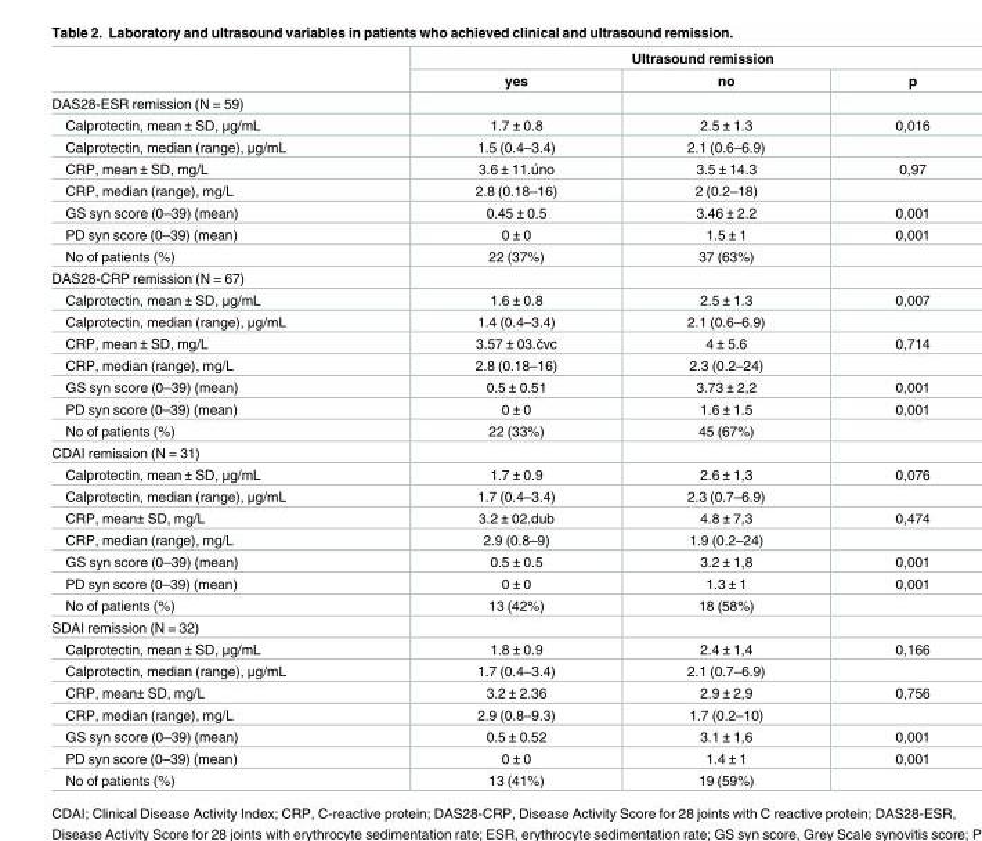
<table><thead><tr><td rowspan="2"></td><td colspan="3">Ultrasound remission</td></tr><tr><td>yes</td><td>no</td><td>p</td></tr></thead><tbody><tr><td colspan="4">DAS28-ESR remission (N = 59)</td></tr><tr><td>Calprotectin, mean ± SD, μg/mL</td><td>1.7 ± 0.8</td><td>2.5 ± 1.3</td><td>0,016</td></tr><tr><td>Calprotectin, median (range), μg/mL</td><td>1.5 (0.4–3.4)</td><td>2.1 (0.6–6.9)</td><td></td></tr><tr><td>CRP, mean ± SD, mg/L</td><td>3.6 ± 11.u´no</td><td>3.5 ± 14.3</td><td>0,97</td></tr><tr><td>CRP, median (range), mg/L</td><td>2.8 (0.18–16)</td><td>2 (0.2–18)</td><td></td></tr><tr><td>GS syn score (0–39) (mean)</td><td>0.45 ± 0.5</td><td>3.46 ± 2.2</td><td>0,001</td></tr><tr><td>PD syn score (0–39) (mean)</td><td>0 ± 0</td><td>1.5 ± 1</td><td>0,001</td></tr><tr><td>No of patients (%)</td><td>22 (37%)</td><td>37 (63%)</td><td></td></tr><tr><td colspan="4">DAS28-CRP remission (N = 67)</td></tr><tr><td>Calprotectin, mean ± SD, μg/mL</td><td>1.6 ± 0.8</td><td>2.5 ± 1.3</td><td>0,007</td></tr><tr><td>Calprotectin, median (range), μg/mL</td><td>1.4 (0.4–3.4)</td><td>2.1 (0.6–6.9)</td><td></td></tr><tr><td>CRP, mean ± SD, mg/L</td><td>3.57 ± 03.čvc</td><td>4 ± 5.6</td><td>0,714</td></tr><tr><td>CRP, median (range), mg/L</td><td>2.8 (0.18–16)</td><td>2.3 (0.2–24)</td><td></td></tr><tr><td>GS syn score (0–39) (mean)</td><td>0.5 ± 0.51</td><td>3.73 ± 2,2</td><td>0,001</td></tr><tr><td>PD syn score (0–39) (mean)</td><td>0 ± 0</td><td>1.6 ± 1.5</td><td>0,001</td></tr><tr><td>No of patients (%)</td><td>22 (33%)</td><td>45 (67%)</td><td></td></tr><tr><td colspan="4">CDAI remission (N = 31)</td></tr><tr><td>Calprotectin, mean ± SD, μg/mL</td><td>1.7 ± 0.9</td><td>2.6 ± 1,3</td><td>0,076</td></tr><tr><td>Calprotectin, median (range), μg/mL</td><td>1.7 (0.4–3.4)</td><td>2.3 (0.7–6.9)</td><td></td></tr><tr><td>CRP, mean± SD, mg/L</td><td>3.2 ± 02.dub</td><td>4.8 ± 7,3</td><td>0,474</td></tr><tr><td>CRP, median (range), mg/L</td><td>2.9 (0.8–9)</td><td>1.9 (0.2–24)</td><td></td></tr><tr><td>GS syn score (0–39) (mean)</td><td>0.5 ± 0.5</td><td>3.2 ± 1,8</td><td>0,001</td></tr><tr><td>PD syn score (0–39) (mean)</td><td>0 ± 0</td><td>1.3 ± 1</td><td>0,001</td></tr><tr><td>No of patients (%)</td><td>13 (42%)</td><td>18 (58%)</td><td></td></tr><tr><td colspan="4">SDAI remission (N = 32)</td></tr><tr><td>Calprotectin, mean ± SD, μg/mL</td><td>1.8 ± 0.9</td><td>2.4 ± 1,4</td><td>0,166</td></tr><tr><td>Calprotectin, median (range), μg/mL</td><td>1.7 (0.4–3.4)</td><td>2.1 (0.7–6.9)</td><td></td></tr><tr><td>CRP, mean± SD, mg/L</td><td>3.2 ± 2.36</td><td>2.9 ± 2,9</td><td>0,756</td></tr><tr><td>CRP, median (range), mg/L</td><td>2.9 (0.8–9.3)</td><td>1.7 (0.2–10)</td><td></td></tr><tr><td>GS syn score (0–39) (mean)</td><td>0.5 ± 0.52</td><td>3.1 ± 1,6</td><td>0,001</td></tr><tr><td>PD syn score (0–39) (mean)</td><td>0 ± 0</td><td>1.4 ± 1</td><td>0,001</td></tr><tr><td>No of patients (%)</td><td>13 (41%)</td><td>19 (59%)</td><td></td></tr></tbody></table>